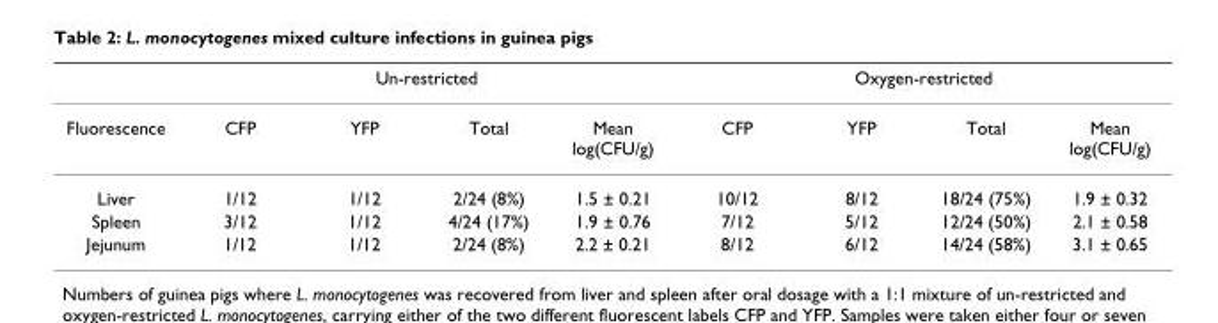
<table><thead><tr><td rowspan="2">Fluorescence</td><td colspan="4">Un-restricted</td><td colspan="4">Oxygen-restricted</td></tr><tr><td>CFP</td><td>YFP</td><td>Total</td><td>Mean log(CFU/g)</td><td>CFP</td><td>YFP</td><td>Total</td><td>Mean log(CFU/g)</td></tr></thead><tbody><tr><td>Liver</td><td>1/12</td><td>1/12</td><td>2/24 (8%)</td><td>1.5 ± 0.21</td><td>10/12</td><td>8/12</td><td>18/24 (75%)</td><td>1.9 ± 0.32</td></tr><tr><td>Spleen</td><td>3/12</td><td>1/12</td><td>4/24 (17%)</td><td>1.9 ± 0.76</td><td>7/12</td><td>5/12</td><td>12/24 (50%)</td><td>2.1 ± 0.58</td></tr><tr><td>Jejunum</td><td>1/12</td><td>1/12</td><td>2/24 (8%)</td><td>2.2 ± 0.21</td><td>8/12</td><td>6/12</td><td>14/24 (58%)</td><td>3.1 ± 0.65</td></tr></tbody></table>